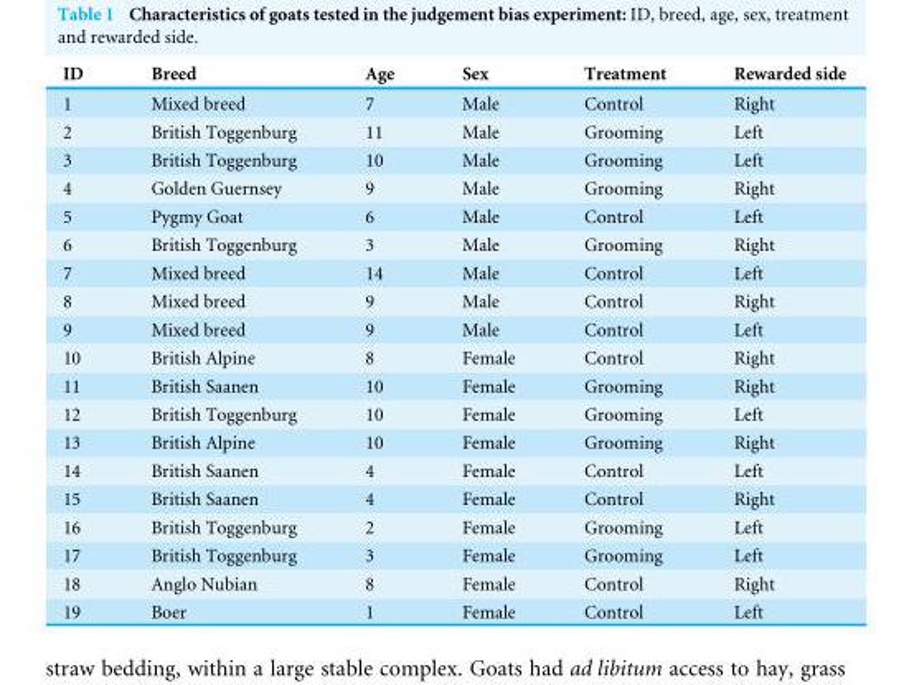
<table><thead><tr><td>ID</td><td>Breed</td><td>Age</td><td>Sex</td><td>Treatment</td><td>Rewarded side</td></tr></thead><tbody><tr><td>1</td><td>Mixed breed</td><td>7</td><td>Male</td><td>Control</td><td>Right</td></tr><tr><td>2</td><td>British Toggenburg</td><td>11</td><td>Male</td><td>Grooming</td><td>Left</td></tr><tr><td>3</td><td>British Toggenburg</td><td>10</td><td>Male</td><td>Grooming</td><td>Left</td></tr><tr><td>4</td><td>Golden Guernsey</td><td>9</td><td>Male</td><td>Grooming</td><td>Right</td></tr><tr><td>5</td><td>Pygmy Goat</td><td>6</td><td>Male</td><td>Control</td><td>Left</td></tr><tr><td>6</td><td>British Toggenburg</td><td>3</td><td>Male</td><td>Grooming</td><td>Right</td></tr><tr><td>7</td><td>Mixed breed</td><td>14</td><td>Male</td><td>Control</td><td>Left</td></tr><tr><td>8</td><td>Mixed breed</td><td>9</td><td>Male</td><td>Control</td><td>Right</td></tr><tr><td>9</td><td>Mixed breed</td><td>9</td><td>Male</td><td>Control</td><td>Left</td></tr><tr><td>10</td><td>British Alpine</td><td>8</td><td>Female</td><td>Control</td><td>Right</td></tr><tr><td>11</td><td>British Saanen</td><td>10</td><td>Female</td><td>Grooming</td><td>Right</td></tr><tr><td>12</td><td>British Toggenburg</td><td>10</td><td>Female</td><td>Grooming</td><td>Left</td></tr><tr><td>13</td><td>British Alpine</td><td>10</td><td>Female</td><td>Grooming</td><td>Right</td></tr><tr><td>14</td><td>British Saanen</td><td>4</td><td>Female</td><td>Control</td><td>Left</td></tr><tr><td>15</td><td>British Saanen</td><td>4</td><td>Female</td><td>Control</td><td>Right</td></tr><tr><td>16</td><td>British Toggenburg</td><td>2</td><td>Female</td><td>Grooming</td><td>Left</td></tr><tr><td>17</td><td>British Toggenburg</td><td>3</td><td>Female</td><td>Grooming</td><td>Left</td></tr><tr><td>18</td><td>Anglo Nubian</td><td>8</td><td>Female</td><td>Control</td><td>Right</td></tr><tr><td>19</td><td>Boer</td><td>1</td><td>Female</td><td>Control</td><td>Left</td></tr></tbody></table>